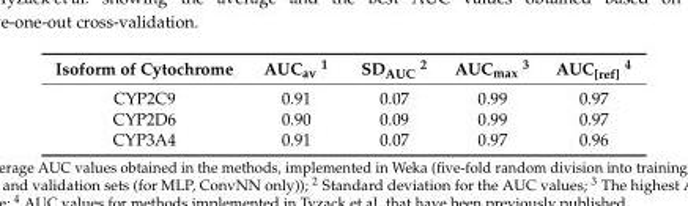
<table><thead><tr><td>Isoform of Cytochrome</td><td>AUC<sub>av</sub> <sup>1</sup></td><td>SD<sub>AUC</sub> <sup>2</sup></td><td>AUC<sub>max</sub> <sup>3</sup></td><td>AUC<sub>[ref]</sub> <sup>4</sup></td></tr></thead><tbody><tr><td>CYP2C9</td><td>0.91</td><td>0.07</td><td>0.99</td><td>0.97</td></tr><tr><td>CYP2D6</td><td>0.90</td><td>0.09</td><td>0.99</td><td>0.97</td></tr><tr><td>CYP3A4</td><td>0.91</td><td>0.07</td><td>0.97</td><td>0.96</td></tr></tbody></table>